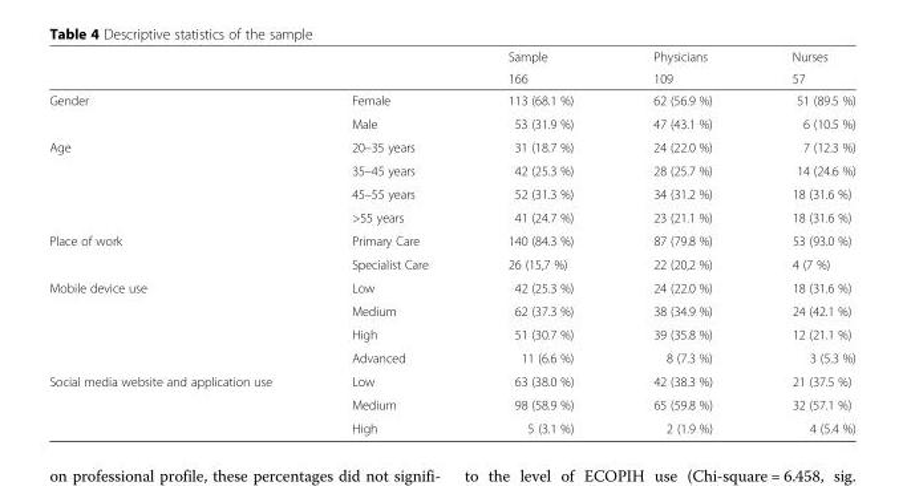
<table><thead><tr><td rowspan="2"></td><td rowspan="2"></td><td rowspan="2">Sample 166</td><td rowspan="2">Physicians 109</td><td rowspan="2">Nurses 57</td></tr><tr></tr></thead><tbody><tr><td rowspan="2">Gender</td><td>Female</td><td>113 (68.1 %)</td><td>62 (56.9 %)</td><td>51 (89.5 %)</td></tr><tr><td>Male</td><td>53 (31.9 %)</td><td>47 (43.1 %)</td><td>6 (10.5 %)</td></tr><tr><td rowspan="4">Age</td><td>20–35 years</td><td>31 (18.7 %)</td><td>24 (22.0 %)</td><td>7 (12.3 %)</td></tr><tr><td>35–45 years</td><td>42 (25.3 %)</td><td>28 (25.7 %)</td><td>14 (24.6 %)</td></tr><tr><td>45–55 years</td><td>52 (31.3 %)</td><td>34 (31.2 %)</td><td>18 (31.6 %)</td></tr><tr><td>&gt;55 years</td><td>41 (24.7 %)</td><td>23 (21.1 %)</td><td>18 (31.6 %)</td></tr><tr><td rowspan="2">Place of work</td><td>Primary Care</td><td>140 (84.3 %)</td><td>87 (79.8 %)</td><td>53 (93.0 %)</td></tr><tr><td>Specialist Care</td><td>26 (15,7 %)</td><td>22 (20,2 %)</td><td>4 (7 %)</td></tr><tr><td rowspan="4">Mobile device use</td><td>Low</td><td>42 (25.3 %)</td><td>24 (22.0 %)</td><td>18 (31.6 %)</td></tr><tr><td>Medium</td><td>62 (37.3 %)</td><td>38 (34.9 %)</td><td>24 (42.1 %)</td></tr><tr><td>High</td><td>51 (30.7 %)</td><td>39 (35.8 %)</td><td>12 (21.1 %)</td></tr><tr><td>Advanced</td><td>11 (6.6 %)</td><td>8 (7.3 %)</td><td>3 (5.3 %)</td></tr><tr><td rowspan="3">Social media website and application use</td><td>Low</td><td>63 (38.0 %)</td><td>42 (38.3 %)</td><td>21 (37.5 %)</td></tr><tr><td>Medium</td><td>98 (58.9 %)</td><td>65 (59.8 %)</td><td>32 (57.1 %)</td></tr><tr><td>High</td><td>5 (3.1 %)</td><td>2 (1.9 %)</td><td>4 (5.4 %)</td></tr></tbody></table>